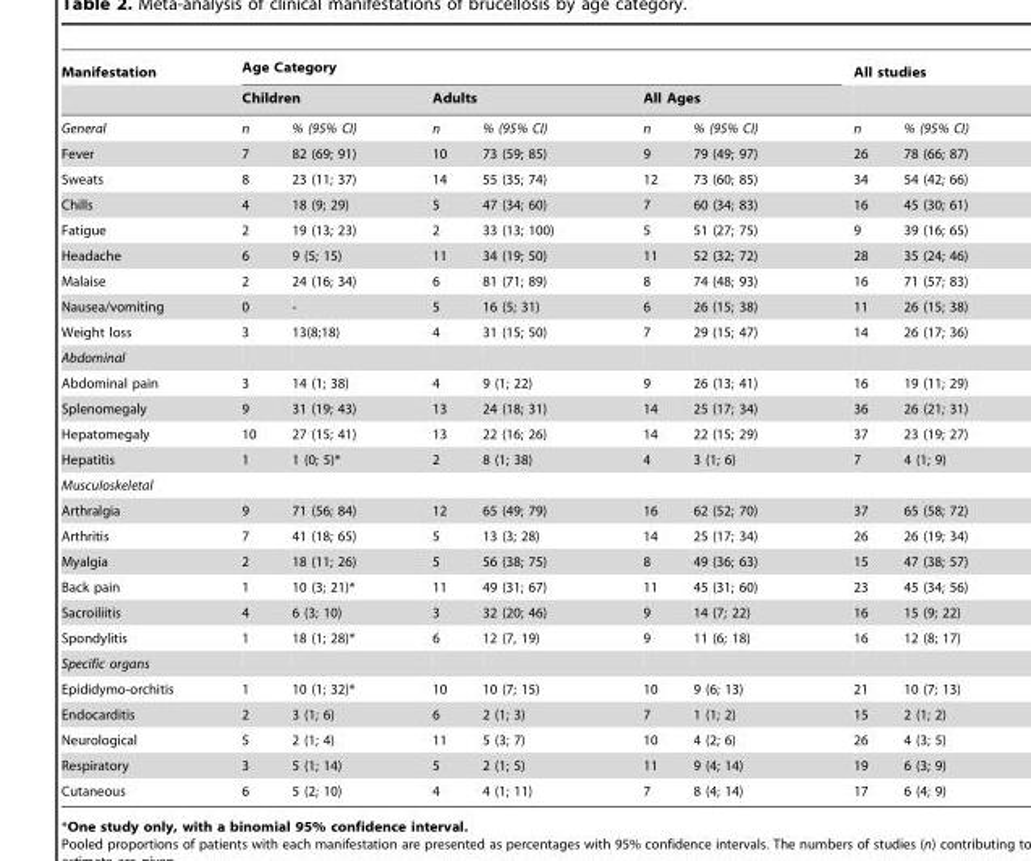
<table><thead><tr><td rowspan="3">Manifestation General</td><td colspan="6">Age Category</td><td colspan="2">All studies</td></tr><tr><td colspan="2">Children</td><td colspan="2">Adults</td><td colspan="2">All Ages</td><td rowspan="2">n</td><td rowspan="2">% (95% CI)</td></tr><tr><td>n</td><td>% (95% CI)</td><td>n</td><td>% (95% CI)</td><td>n</td><td>% (95% CI)</td></tr></thead><tbody><tr><td>Fever</td><td>7</td><td>82 (69; 91)</td><td>10</td><td>73 (59; 85)</td><td>9</td><td>79 (49; 97)</td><td>26</td><td>78 (66; 87)</td></tr><tr><td>Sweats</td><td>8</td><td>23 (11; 37)</td><td>14</td><td>55 (35; 74)</td><td>12</td><td>73 (60; 85)</td><td>34</td><td>54 (42; 66)</td></tr><tr><td>Chills</td><td>4</td><td>18 (9; 29)</td><td>5</td><td>47 (34; 60)</td><td>7</td><td>60 (34; 83)</td><td>16</td><td>45 (30; 61)</td></tr><tr><td>Fatigue</td><td>2</td><td>19 (13; 23)</td><td>2</td><td>33 (13; 100)</td><td>5</td><td>51 (27; 75)</td><td>9</td><td>39 (16; 65)</td></tr><tr><td>Headache</td><td>6</td><td>9 (5; 15)</td><td>11</td><td>34 (19; 50)</td><td>11</td><td>52 (32; 72)</td><td>28</td><td>35 (24; 46)</td></tr><tr><td>Malaise</td><td>2</td><td>24 (16; 34)</td><td>6</td><td>81 (71; 89)</td><td>8</td><td>74 (48; 93)</td><td>16</td><td>71 (57; 83)</td></tr><tr><td>Nausea/vomiting</td><td>0</td><td>-</td><td>5</td><td>16 (5; 31)</td><td>6</td><td>26 (15; 38)</td><td>11</td><td>26 (15; 38)</td></tr><tr><td>Weight loss</td><td>3</td><td>13(8;18)</td><td>4</td><td>31 (15; 50)</td><td>7</td><td>29 (15; 47)</td><td>14</td><td>26 (17; 36)</td></tr><tr><td colspan="9">Abdominal</td></tr><tr><td>Abdominal pain</td><td>3</td><td>14 (1; 38)</td><td>4</td><td>9 (1; 22)</td><td>9</td><td>26 (13; 41)</td><td>16</td><td>19 (11; 29)</td></tr><tr><td>Splenomegaly</td><td>9</td><td>31 (19; 43)</td><td>13</td><td>24 (18; 31)</td><td>14</td><td>25 (17; 34)</td><td>36</td><td>26 (21; 31)</td></tr><tr><td>Hepatomegaly</td><td>10</td><td>27 (15; 41)</td><td>13</td><td>22 (16; 26)</td><td>14</td><td>22 (15; 29)</td><td>37</td><td>23 (19; 27)</td></tr><tr><td>Hepatitis</td><td>1</td><td>1 (0; 5)*</td><td>2</td><td>8 (1; 38)</td><td>4</td><td>3 (1; 6)</td><td>7</td><td>4 (1; 9)</td></tr><tr><td colspan="9">Musculoskeletal</td></tr><tr><td>Arthralgia</td><td>9</td><td>71 (56; 84)</td><td>12</td><td>65 (49; 79)</td><td>16</td><td>62 (52; 70)</td><td>37</td><td>65 (58; 72)</td></tr><tr><td>Arthritis</td><td>7</td><td>41 (18; 65)</td><td>5</td><td>13 (3; 28)</td><td>14</td><td>25 (17; 34)</td><td>26</td><td>26 (19; 34)</td></tr><tr><td>Myalgia</td><td>2</td><td>18 (11; 26)</td><td>5</td><td>56 (38; 75)</td><td>8</td><td>49 (36; 63)</td><td>15</td><td>47 (38; 57)</td></tr><tr><td>Back pain</td><td>1</td><td>10 (3; 21)*</td><td>11</td><td>49 (31; 67)</td><td>11</td><td>45 (31; 60)</td><td>23</td><td>45 (34; 56)</td></tr><tr><td>Sacroiliitis</td><td>4</td><td>6 (3; 10)</td><td>3</td><td>32 (20; 46)</td><td>9</td><td>14 (7; 22)</td><td>16</td><td>15 (9; 22)</td></tr><tr><td>Spondylitis</td><td>1</td><td>18 (1; 28)*</td><td>6</td><td>12 (7, 19)</td><td>9</td><td>11 (6; 18)</td><td>16</td><td>12 (8; 17)</td></tr><tr><td colspan="9">Specific organs</td></tr><tr><td>Epididymo-orchitis</td><td>1</td><td>10 (1; 32)*</td><td>10</td><td>10 (7; 15)</td><td>10</td><td>9 (6; 13)</td><td>21</td><td>10 (7; 13)</td></tr><tr><td>Endocarditis</td><td>2</td><td>3 (1; 6)</td><td>6</td><td>2 (1; 3)</td><td>7</td><td>1 (1; 2)</td><td>15</td><td>2 (1; 2)</td></tr><tr><td>Neurological</td><td>5</td><td>2 (1; 4)</td><td>11</td><td>5 (3; 7)</td><td>10</td><td>4 (2; 6)</td><td>26</td><td>4 (3; 5)</td></tr><tr><td>Respiratory</td><td>3</td><td>5 (1; 14)</td><td>5</td><td>2 (1; 5)</td><td>11</td><td>9 (4; 14)</td><td>19</td><td>6 (3; 9)</td></tr><tr><td>Cutaneous</td><td>6</td><td>5 (2; 10)</td><td>4</td><td>4 (1; 11)</td><td>7</td><td>8 (4; 14)</td><td>17</td><td>6 (4; 9)</td></tr></tbody></table>